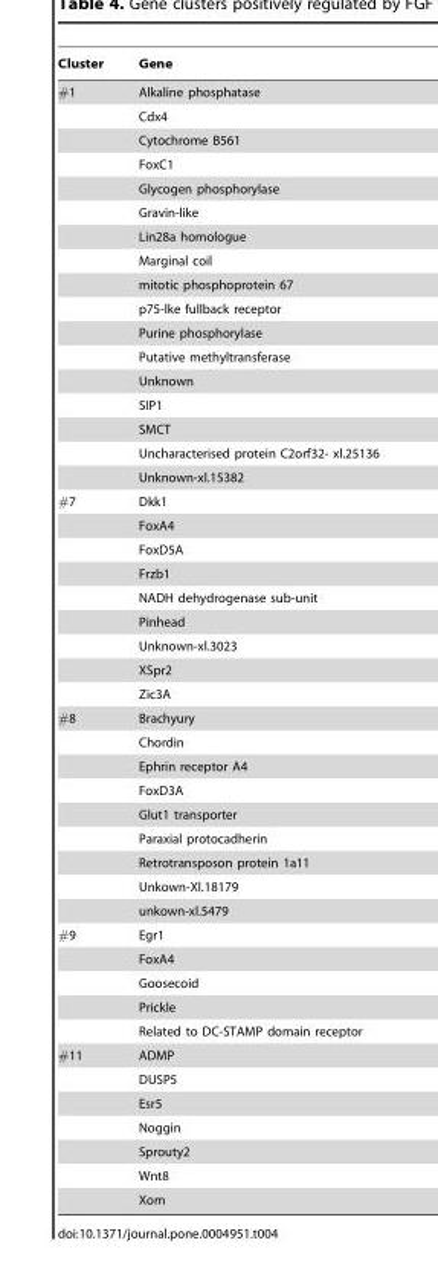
<table><thead><tr><td>Cluster</td><td>Gene</td></tr></thead><tbody><tr><td rowspan="17">#1</td><td>Alkaline phosphatase</td></tr><tr><td>Cdx4</td></tr><tr><td>Cytochrome B561</td></tr><tr><td>FoxC1</td></tr><tr><td>Glycogen phosphorylase</td></tr><tr><td>Gravin-like</td></tr><tr><td>Lin28a homologue</td></tr><tr><td>Marginal coil</td></tr><tr><td>mitotic phosphoprotein 67</td></tr><tr><td>p75-lke fullback receptor</td></tr><tr><td>Purine phosphorylase</td></tr><tr><td>Putative methyltransferase</td></tr><tr><td>Unknown</td></tr><tr><td>SIP1</td></tr><tr><td>SMCT</td></tr><tr><td>Uncharacterised protein C2orf32- xl.25136</td></tr><tr><td>Unknown-xl.15382</td></tr><tr><td rowspan="9">#7</td><td>Dkk1</td></tr><tr><td>FoxA4</td></tr><tr><td>FoxD5A</td></tr><tr><td>Frzb1</td></tr><tr><td>NADH dehydrogenase sub-unit</td></tr><tr><td>Pinhead</td></tr><tr><td>Unknown-xl.3023</td></tr><tr><td>XSpr2</td></tr><tr><td>Zic3A</td></tr><tr><td rowspan="9">#8</td><td>Brachyury</td></tr><tr><td>Chordin</td></tr><tr><td>Ephrin receptor A4</td></tr><tr><td>FoxD3A</td></tr><tr><td>Glut1 transporter</td></tr><tr><td>Paraxial protocadherin</td></tr><tr><td>Retrotransposon protein 1a11</td></tr><tr><td>Unkown-Xl.18179</td></tr><tr><td>unkown-xl.5479</td></tr><tr><td rowspan="5">#9</td><td>Egr1</td></tr><tr><td>FoxA4</td></tr><tr><td>Goosecoid</td></tr><tr><td>Prickle</td></tr><tr><td>Related to DC-STAMP domain receptor</td></tr><tr><td rowspan="7">#11</td><td>ADMP</td></tr><tr><td>DUSP5</td></tr><tr><td>Esr5</td></tr><tr><td>Noggin</td></tr><tr><td>Sprouty2</td></tr><tr><td>Wnt8</td></tr><tr><td>Xom</td></tr></tbody></table>